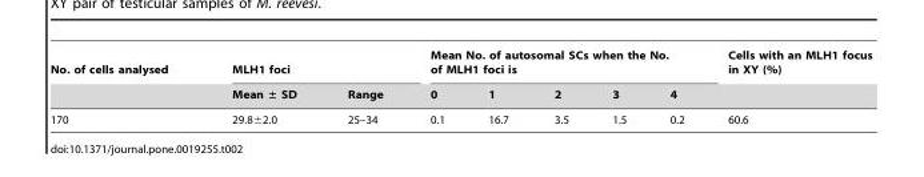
<table><thead><tr><td rowspan="2">No. of cells analysed</td><td colspan="2">MLH1 foci</td><td colspan="5">Mean No. of autosomal SCs when the No. of MLH1 foci is</td><td rowspan="2">Cells with an MLH1 focus in XY (%)</td></tr><tr><td>Mean ± SD</td><td>Range</td><td>0</td><td>1</td><td>2</td><td>3</td><td>4</td></tr></thead><tbody><tr><td>170</td><td>29.8±2.0</td><td>25–34</td><td>0.1</td><td>16.7</td><td>3.5</td><td>1.5</td><td>0.2</td><td>60.6</td></tr></tbody></table>